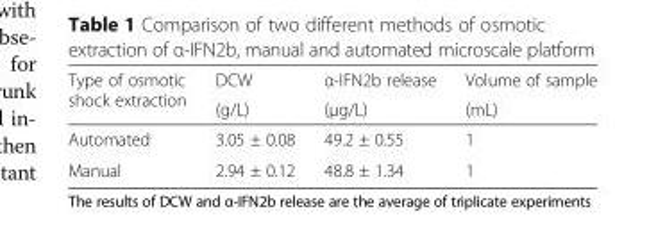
<table><thead><tr><td rowspan="2">Type of osmotic shock extraction</td><td rowspan="2">DCW (g/L)</td><td rowspan="2">α-IFN2b release (μg/L)</td><td rowspan="2">Volume of sample (mL)</td></tr><tr></tr></thead><tbody><tr><td>Automated</td><td>3.05 ± 0.08</td><td>49.2 ± 0.55</td><td>1</td></tr><tr><td>Manual</td><td>2.94 ± 0.12</td><td>48.8 ± 1.34</td><td>1</td></tr></tbody></table>